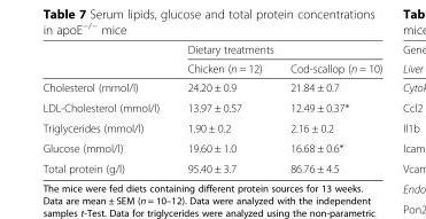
<table><thead><tr><td rowspan="2"></td><td colspan="2">Dietary treatments</td></tr><tr><td>Chicken (n = 12)</td><td>Cod-scallop (n = 10)</td></tr></thead><tbody><tr><td>Cholesterol (mmol/l)</td><td>24.20 ± 0.9</td><td>21.84 ± 0.7</td></tr><tr><td>LDL-Cholesterol (mmol/l)</td><td>13.97 ± 0.57</td><td>12.49 ± 0.37*</td></tr><tr><td>Triglycerides (mmol/l)</td><td>1.90 ± 0.2</td><td>2.16 ± 0.2</td></tr><tr><td>Glucose (mmol/l)</td><td>19.60 ± 1.0</td><td>16.68 ± 0.6*</td></tr><tr><td>Total protein (g/l)</td><td>95.40 ± 3.7</td><td>86.76 ± 4.5</td></tr></tbody></table>